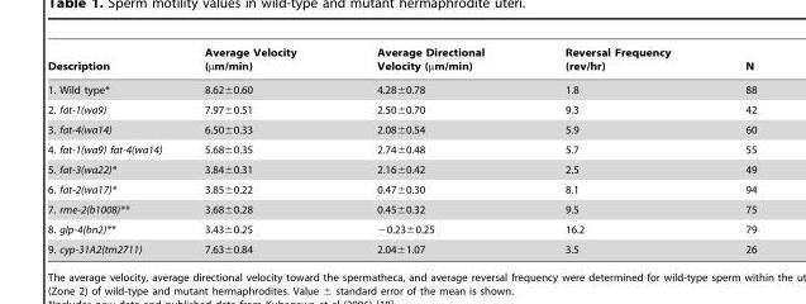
<table><thead><tr><td>Description</td><td>Average Velocity (µm/min)</td><td>Average Directional Velocity (µm/min)</td><td>Reversal Frequency (rev/hr)</td><td>N</td></tr></thead><tbody><tr><td>1. Wild type*</td><td>8.62±0.60</td><td>4.28±0.78</td><td>1.8</td><td>88</td></tr><tr><td>2. fat-1(wa9)</td><td>7.97±0.51</td><td>2.50±0.70</td><td>9.3</td><td>42</td></tr><tr><td>3. fat-4(wa14)</td><td>6.50±0.33</td><td>2.08±0.54</td><td>5.9</td><td>60</td></tr><tr><td>4. fat-1(wa9) fat-4(wa14)</td><td>5.68±0.35</td><td>2.74±0.48</td><td>5.7</td><td>55</td></tr><tr><td>5. fat-3(wa22)*</td><td>3.84±0.31</td><td>2.16±0.42</td><td>2.5</td><td>49</td></tr><tr><td>6. fat-2(wa17)*</td><td>3.85±0.22</td><td>0.47±0.30</td><td>8.1</td><td>94</td></tr><tr><td>7. rme-2(b1008)**</td><td>3.68±0.28</td><td>0.45±0.32</td><td>9.5</td><td>75</td></tr><tr><td>8. glp-4(bn2)**</td><td>3.43±0.25</td><td>−0.23±0.25</td><td>16.2</td><td>79</td></tr><tr><td>9. cyp-31A2(tm2711)</td><td>7.63±0.84</td><td>2.04±1.07</td><td>3.5</td><td>26</td></tr></tbody></table>